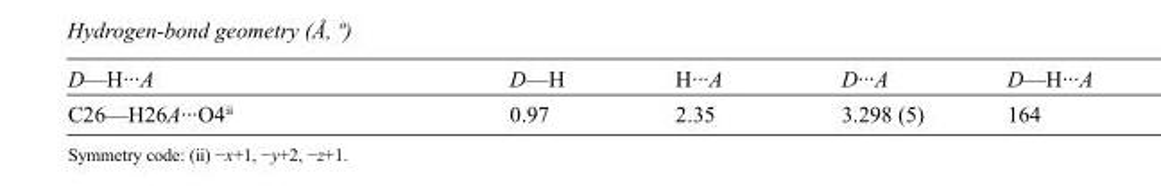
<table><tbody><tr><td>D—H···A</td><td>D—H</td><td>H···A</td><td>D···A</td><td>D—H···A</td></tr><tr><td>C26—H26A···O4<sup>ii</sup></td><td>0.97</td><td>2.35</td><td>3.298 (5)</td><td>164</td></tr></tbody></table>